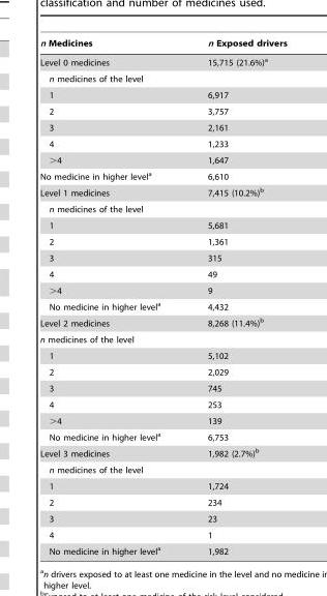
<table><thead><tr><td>n Medicines</td><td>n Exposed drivers</td></tr></thead><tbody><tr><td>Level 0 medicines</td><td>15,715 (21.6%)<sup>a</sup></td></tr><tr><td colspan="2">n medicines of the level</td></tr><tr><td>1</td><td>6,917</td></tr><tr><td>2</td><td>3,757</td></tr><tr><td>3</td><td>2,161</td></tr><tr><td>4</td><td>1,233</td></tr><tr><td>&gt;4</td><td>1,647</td></tr><tr><td>No medicine in higher level<sup>a</sup></td><td>6,610</td></tr><tr><td>Level 1 medicines</td><td>7,415 (10.2%)<sup>b</sup></td></tr><tr><td colspan="2">n medicines of the level</td></tr><tr><td>1</td><td>5,681</td></tr><tr><td>2</td><td>1,361</td></tr><tr><td>3</td><td>315</td></tr><tr><td>4</td><td>49</td></tr><tr><td>&gt;4</td><td>9</td></tr><tr><td>No medicine in higher level<sup>a</sup></td><td>4,432</td></tr><tr><td>Level 2 medicines</td><td>8,268 (11.4%)<sup>b</sup></td></tr><tr><td colspan="2">n medicines of the level</td></tr><tr><td>1</td><td>5,102</td></tr><tr><td>2</td><td>2,029</td></tr><tr><td>3</td><td>745</td></tr><tr><td>4</td><td>253</td></tr><tr><td>&gt;4</td><td>139</td></tr><tr><td>No medicine in higher level<sup>a</sup></td><td>6,753</td></tr><tr><td>Level 3 medicines</td><td>1,982 (2.7%)<sup>b</sup></td></tr><tr><td colspan="2">n medicines of the level</td></tr><tr><td>1</td><td>1,724</td></tr><tr><td>2</td><td>234</td></tr><tr><td>3</td><td>23</td></tr><tr><td>4</td><td>1</td></tr><tr><td>No medicine in higher level<sup>a</sup></td><td>1,982</td></tr></tbody></table>